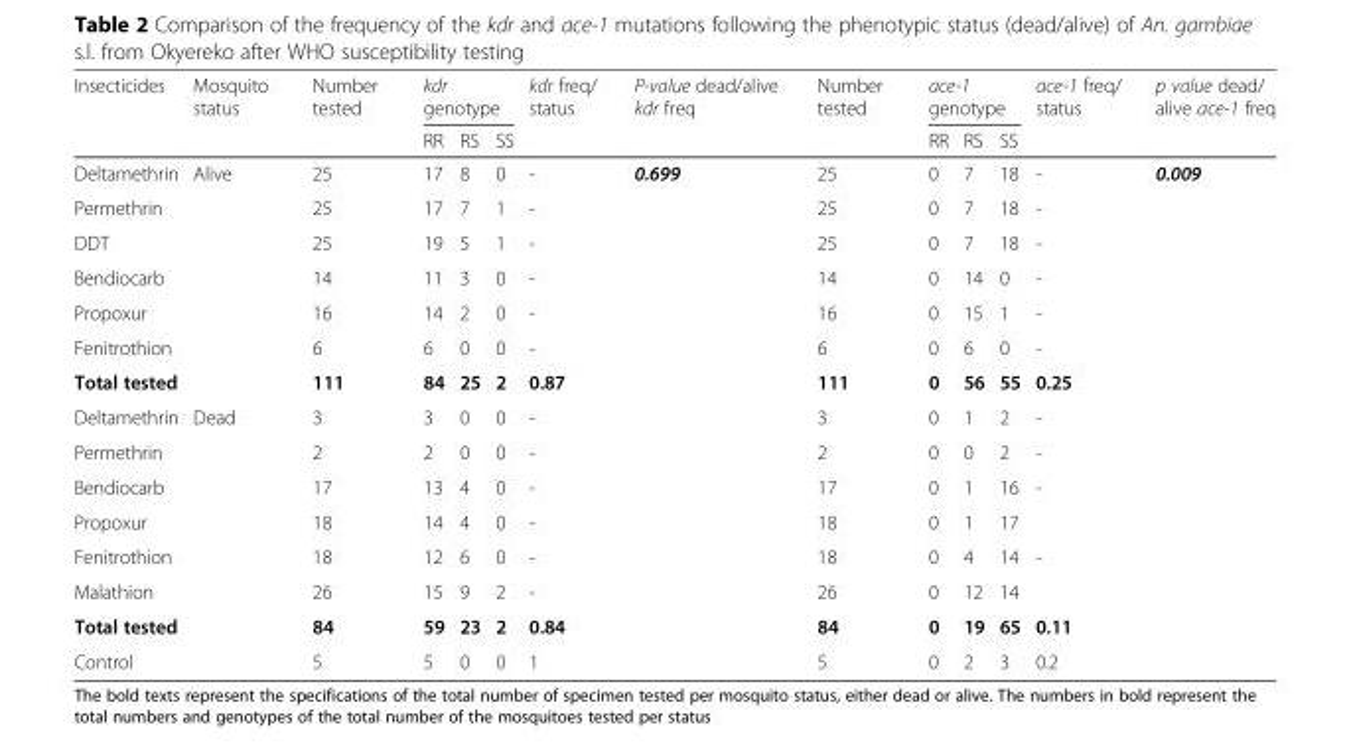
<table><thead><tr><td rowspan="2">Insecticides</td><td rowspan="2">Mosquito status</td><td rowspan="2">Number tested</td><td colspan="3">kdr genotype</td><td rowspan="2">kdr freq/ status</td><td rowspan="2">P-value dead/alive kdr freq</td><td rowspan="2">Number tested</td><td colspan="3">ace-1 genotype</td><td rowspan="2">ace-1 freq/ status</td><td rowspan="2">p value dead/ alive ace-1 freq</td></tr><tr><td>RR</td><td>RS</td><td>SS</td><td>RR</td><td>RS</td><td>SS</td></tr></thead><tbody><tr><td>Deltamethrin</td><td rowspan="7">Alive</td><td>25</td><td>17</td><td>8</td><td>0</td><td>-</td><td rowspan="15">0.699</td><td>25</td><td>0</td><td>7</td><td>18</td><td>-</td><td rowspan="15">0.009</td></tr><tr><td>Permethrin</td><td>25</td><td>17</td><td>7</td><td>1</td><td>-</td><td>25</td><td>0</td><td>7</td><td>18</td><td>-</td></tr><tr><td>DDT</td><td>25</td><td>19</td><td>5</td><td>1</td><td>-</td><td>25</td><td>0</td><td>7</td><td>18</td><td>-</td></tr><tr><td>Bendiocarb</td><td>14</td><td>11</td><td>3</td><td>0</td><td>-</td><td>14</td><td>0</td><td>14</td><td>0</td><td>-</td></tr><tr><td>Propoxur</td><td>16</td><td>14</td><td>2</td><td>0</td><td>-</td><td>16</td><td>0</td><td>15</td><td>1</td><td>-</td></tr><tr><td>Fenitrothion</td><td>6</td><td>6</td><td>0</td><td>0</td><td>-</td><td>6</td><td>0</td><td>6</td><td>0</td><td>-</td></tr><tr><td>Total tested</td><td>111</td><td>84</td><td>25</td><td>2</td><td>0.87</td><td>111</td><td>0</td><td>56</td><td>55</td><td>0.25</td></tr><tr><td>Deltamethrin</td><td rowspan="7">Dead</td><td>3</td><td>3</td><td>0</td><td>0</td><td>-</td><td>3</td><td>0</td><td>1</td><td>2</td><td>-</td></tr><tr><td>Permethrin</td><td>2</td><td>2</td><td>0</td><td>0</td><td>-</td><td>2</td><td>0</td><td>0</td><td>2</td><td>-</td></tr><tr><td>Bendiocarb</td><td>17</td><td>13</td><td>4</td><td>0</td><td>-</td><td>17</td><td>0</td><td>1</td><td>16</td><td rowspan="2">-</td></tr><tr><td>Propoxur</td><td>18</td><td>14</td><td>4</td><td>0</td><td>-</td><td>18</td><td>0</td><td>1</td><td>17</td></tr><tr><td>Fenitrothion</td><td>18</td><td>12</td><td>6</td><td>0</td><td>-</td><td>18</td><td>0</td><td>4</td><td>14</td><td>-</td></tr><tr><td>Malathion</td><td>26</td><td>15</td><td>9</td><td>2</td><td>-</td><td>26</td><td>0</td><td>12</td><td>14</td><td></td></tr><tr><td>Total tested</td><td>84</td><td>59</td><td>23</td><td>2</td><td>0.84</td><td>84</td><td>0</td><td>19</td><td>65</td><td>0.11</td></tr><tr><td>Control</td><td></td><td>5</td><td>5</td><td>0</td><td>0</td><td>1</td><td>5</td><td>0</td><td>2</td><td>3</td><td>0.2</td></tr></tbody></table>